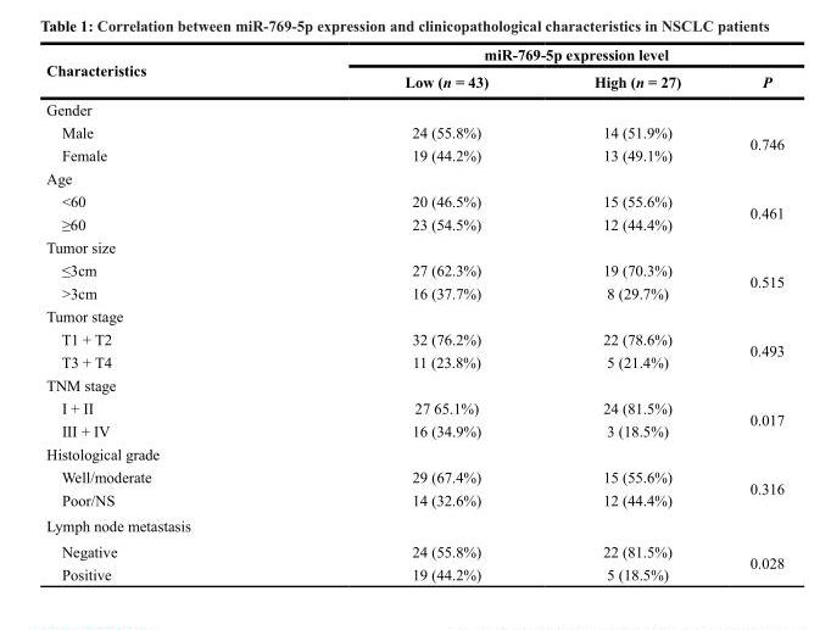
<table><thead><tr><td rowspan="2">Characteristics</td><td colspan="3">miR-769-5p expression level</td></tr><tr><td>Low (n = 43)</td><td>High (n = 27)</td><td>P</td></tr></thead><tbody><tr><td colspan="4">Gender</td></tr><tr><td>Male</td><td>24 (55.8%)</td><td>14 (51.9%)</td><td rowspan="2">0.746</td></tr><tr><td>Female</td><td>19 (44.2%)</td><td>13 (49.1%)</td></tr><tr><td colspan="4">Age</td></tr><tr><td>&lt;60</td><td>20 (46.5%)</td><td>15 (55.6%)</td><td rowspan="2">0.461</td></tr><tr><td>≥60</td><td>23 (54.5%)</td><td>12 (44.4%)</td></tr><tr><td colspan="4">Tumor size</td></tr><tr><td>≤3cm</td><td>27 (62.3%)</td><td>19 (70.3%)</td><td rowspan="2">0.515</td></tr><tr><td>&gt;3cm</td><td>16 (37.7%)</td><td>8 (29.7%)</td></tr><tr><td colspan="4">Tumor stage</td></tr><tr><td>T1 + T2</td><td>32 (76.2%)</td><td>22 (78.6%)</td><td rowspan="2">0.493</td></tr><tr><td>T3 + T4</td><td>11 (23.8%)</td><td>5 (21.4%)</td></tr><tr><td colspan="4">TNM stage</td></tr><tr><td>I + II</td><td>27 65.1%)</td><td>24 (81.5%)</td><td rowspan="2">0.017</td></tr><tr><td>III + IV</td><td>16 (34.9%)</td><td>3 (18.5%)</td></tr><tr><td colspan="4">Histological grade</td></tr><tr><td>Well/moderate</td><td>29 (67.4%)</td><td>15 (55.6%)</td><td rowspan="2">0.316</td></tr><tr><td>Poor/NS</td><td>14 (32.6%)</td><td>12 (44.4%)</td></tr><tr><td colspan="4">Lymph node metastasis</td></tr><tr><td>Negative</td><td>24 (55.8%)</td><td>22 (81.5%)</td><td rowspan="2">0.028</td></tr><tr><td>Positive</td><td>19 (44.2%)</td><td>5 (18.5%)</td></tr></tbody></table>